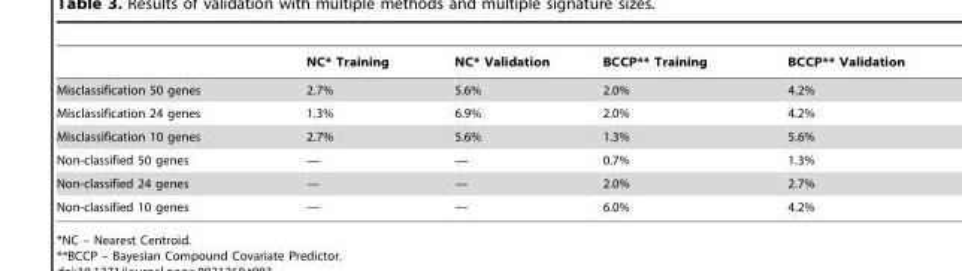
<table><thead><tr><td></td><td>NC* Training</td><td>NC* Validation</td><td>BCCP** Training</td><td>BCCP** Validation</td></tr></thead><tbody><tr><td>Misclassification 50 genes</td><td>2.7%</td><td>5.6%</td><td>2.0%</td><td>4.2%</td></tr><tr><td>Misclassification 24 genes</td><td>1.3%</td><td>6.9%</td><td>2.0%</td><td>4.2%</td></tr><tr><td>Misclassification 10 genes</td><td>2.7%</td><td>5.6%</td><td>1.3%</td><td>5.6%</td></tr><tr><td>Non-classified 50 genes</td><td>—</td><td>—</td><td>0.7%</td><td>1.3%</td></tr><tr><td>Non-classified 24 genes</td><td>—</td><td>—</td><td>2.0%</td><td>2.7%</td></tr><tr><td>Non-classified 10 genes</td><td>—</td><td>—</td><td>6.0%</td><td>4.2%</td></tr></tbody></table>